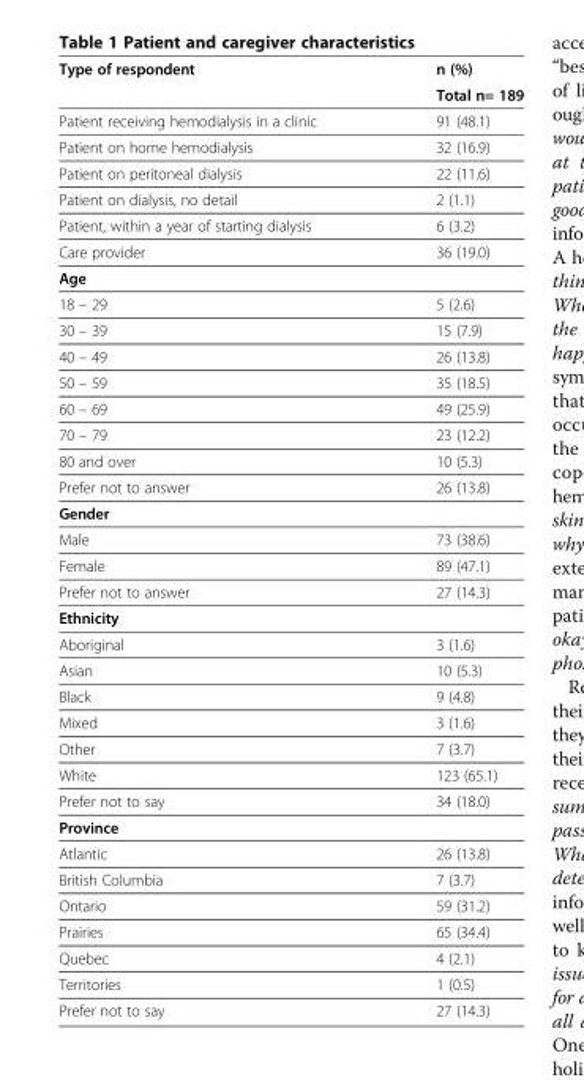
<table><thead><tr><td rowspan="2">Type of respondent</td><td rowspan="2">n (%) Total n= 189</td></tr><tr></tr></thead><tbody><tr><td>Patient receiving hemodialysis in a clinic</td><td>91 (48.1)</td></tr><tr><td>Patient on home hemodialysis</td><td>32 (16.9)</td></tr><tr><td>Patient on peritoneal dialysis</td><td>22 (11.6)</td></tr><tr><td>Patient on dialysis, no detail</td><td>2 (1.1)</td></tr><tr><td>Patient, within a year of starting dialysis</td><td>6 (3.2)</td></tr><tr><td>Care provider</td><td>36 (19.0)</td></tr><tr><td colspan="2">Age</td></tr><tr><td>18 – 29</td><td>5 (2.6)</td></tr><tr><td>30 – 39</td><td>15 (7.9)</td></tr><tr><td>40 – 49</td><td>26 (13.8)</td></tr><tr><td>50 – 59</td><td>35 (18.5)</td></tr><tr><td>60 – 69</td><td>49 (25.9)</td></tr><tr><td>70 – 79</td><td>23 (12.2)</td></tr><tr><td>80 and over</td><td>10 (5.3)</td></tr><tr><td>Prefer not to answer</td><td>26 (13.8)</td></tr><tr><td colspan="2">Gender</td></tr><tr><td>Male</td><td>73 (38.6)</td></tr><tr><td>Female</td><td>89 (47.1)</td></tr><tr><td>Prefer not to answer</td><td>27 (14.3)</td></tr><tr><td colspan="2">Ethnicity</td></tr><tr><td>Aboriginal</td><td>3 (1.6)</td></tr><tr><td>Asian</td><td>10 (5.3)</td></tr><tr><td>Black</td><td>9 (4.8)</td></tr><tr><td>Mixed</td><td>3 (1.6)</td></tr><tr><td>Other</td><td>7 (3.7)</td></tr><tr><td>White</td><td>123 (65.1)</td></tr><tr><td>Prefer not to say</td><td>34 (18.0)</td></tr><tr><td colspan="2">Province</td></tr><tr><td>Atlantic</td><td>26 (13.8)</td></tr><tr><td>British Columbia</td><td>7 (3.7)</td></tr><tr><td>Ontario</td><td>59 (31.2)</td></tr><tr><td>Prairies</td><td>65 (34.4)</td></tr><tr><td>Quebec</td><td>4 (2.1)</td></tr><tr><td>Territories</td><td>1 (0.5)</td></tr><tr><td>Prefer not to say</td><td>27 (14.3)</td></tr></tbody></table>